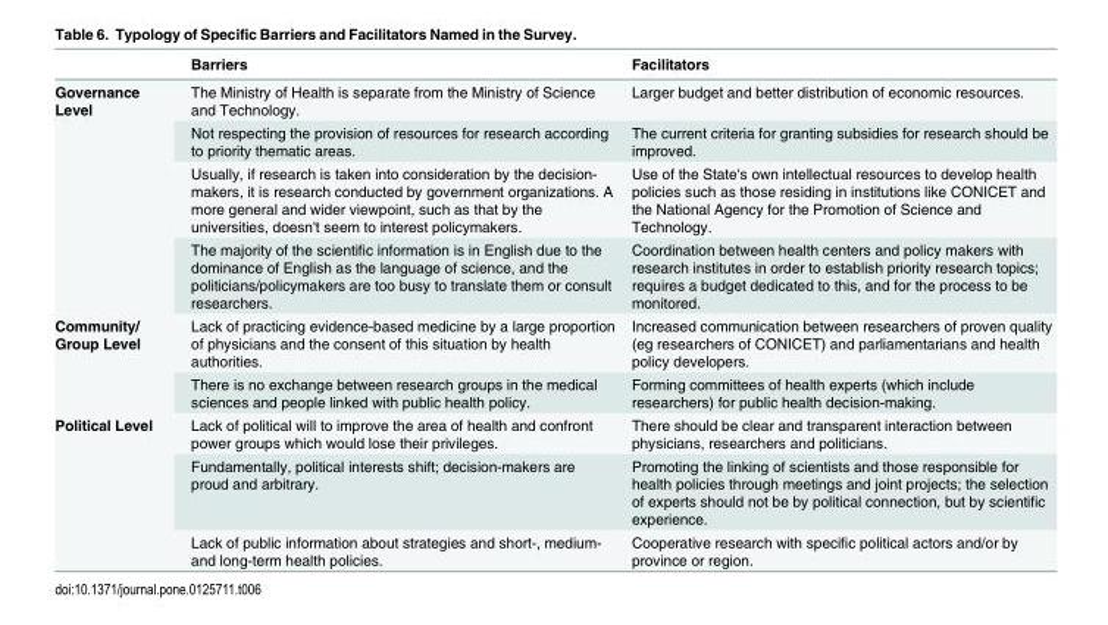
<table><thead><tr><td></td><td>Barriers</td><td>Facilitators</td></tr></thead><tbody><tr><td rowspan="4">Governance Level</td><td>The Ministry of Health is separate from the Ministry of Science and Technology.</td><td>Larger budget and better distribution of economic resources.</td></tr><tr><td>Not respecting the provision of resources for research according to priority thematic areas.</td><td>The current criteria for granting subsidies for research should be improved.</td></tr><tr><td>Usually, if research is taken into consideration by the decision- makers, it is research conducted by government organizations. A more general and wider viewpoint, such as that by the universities, doesn&#x27;t seem to interest policymakers.</td><td>Use of the State&#x27;s own intellectual resources to develop health policies such as those residing in institutions like CONICET and the National Agency for the Promotion of Science and Technology.</td></tr><tr><td>The majority of the scientific information is in English due to the dominance of English as the language of science, and the politicians/policymakers are too busy to translate them or consult researchers.</td><td>Coordination between health centers and policy makers with research institutes in order to establish priority research topics; requires a budget dedicated to this, and for the process to be monitored.</td></tr><tr><td rowspan="2">Community/ Group Level</td><td>Lack of practicing evidence-based medicine by a large proportion of physicians and the consent of this situation by health authorities.</td><td>Increased communication between researchers of proven quality (eg researchers of CONICET) and parliamentarians and health policy developers.</td></tr><tr><td>There is no exchange between research groups in the medical sciences and people linked with public health policy.</td><td>Forming committees of health experts (which include researchers) for public health decision-making.</td></tr><tr><td rowspan="3">Political Level</td><td>Lack of political will to improve the area of health and confront power groups which would lose their privileges.</td><td>There should be clear and transparent interaction between physicians, researchers and politicians.</td></tr><tr><td>Fundamentally, political interests shift; decision-makers are proud and arbitrary.</td><td>Promoting the linking of scientists and those responsible for health policies through meetings and joint projects; the selection of experts should not be by political connection, but by scientific experience.</td></tr><tr><td>Lack of public information about strategies and short-, medium- and long-term health policies.</td><td>Cooperative research with specific political actors and/or by province or region.</td></tr></tbody></table>